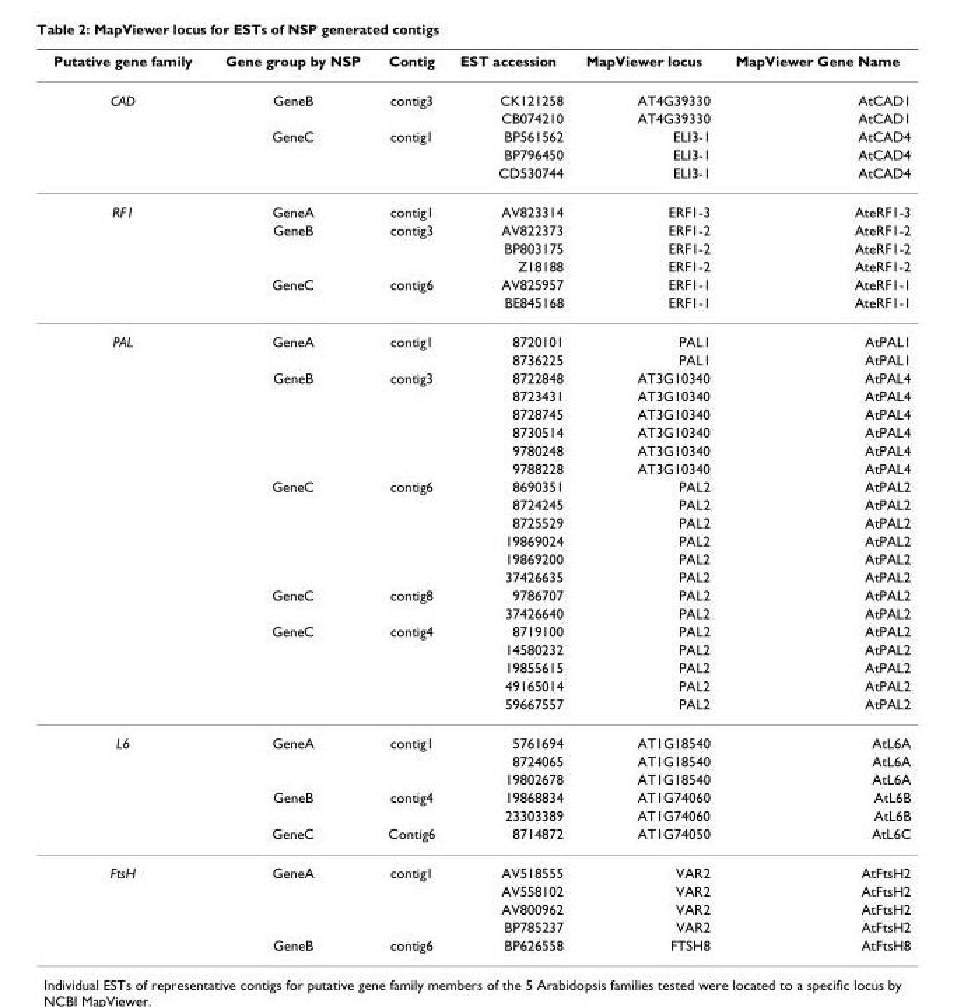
<table><thead><tr><td>Putative gene family</td><td>Gene group by NSP</td><td>Contig</td><td>EST accession</td><td>MapViewer locus</td><td>MapViewer Gene Name</td></tr></thead><tbody><tr><td rowspan="5">CAD</td><td>GeneB</td><td>contig3</td><td>CK121258</td><td>AT4G39330</td><td>AtCAD1</td></tr><tr><td></td><td></td><td>CB074210</td><td>AT4G39330</td><td>AtCAD1</td></tr><tr><td>GeneC</td><td>contig1</td><td>BP561562</td><td>ELI3-1</td><td>AtCAD4</td></tr><tr><td></td><td></td><td>BP796450</td><td>ELI3-1</td><td>AtCAD4</td></tr><tr><td></td><td></td><td>CD530744</td><td>ELI3-1</td><td>AtCAD4</td></tr><tr><td rowspan="6">RF1</td><td>GeneA</td><td>contig1</td><td>AV823314</td><td>ERF1-3</td><td>AteRF1-3</td></tr><tr><td>GeneB</td><td>contig3</td><td>AV822373</td><td>ERF1-2</td><td>AteRF1-2</td></tr><tr><td></td><td></td><td>BP803175</td><td>ERF1-2</td><td>AteRF1-2</td></tr><tr><td></td><td></td><td>Z18188</td><td>ERF1-2</td><td>AteRF1-2</td></tr><tr><td>GeneC</td><td>contig6</td><td>AV825957</td><td>ERF1-1</td><td>AteRF1-1</td></tr><tr><td></td><td></td><td>BE845168</td><td>ERF1-1</td><td>AteRF1-1</td></tr><tr><td rowspan="21">PAL</td><td>GeneA</td><td>contig1</td><td>8720101</td><td>PAL1</td><td>AtPAL1</td></tr><tr><td></td><td></td><td>8736225</td><td>PAL1</td><td>AtPAL1</td></tr><tr><td>GeneB</td><td>contig3</td><td>8722848</td><td>AT3G10340</td><td>AtPAL4</td></tr><tr><td></td><td></td><td>8723431</td><td>AT3G10340</td><td>AtPAL4</td></tr><tr><td></td><td></td><td>8728745</td><td>AT3G10340</td><td>AtPAL4</td></tr><tr><td></td><td></td><td>8730514</td><td>AT3G10340</td><td>AtPAL4</td></tr><tr><td></td><td></td><td>9780248</td><td>AT3G10340</td><td>AtPAL4</td></tr><tr><td></td><td></td><td>9788228</td><td>AT3G10340</td><td>AtPAL4</td></tr><tr><td>GeneC</td><td>contig6</td><td>8690351</td><td>PAL2</td><td>AtPAL2</td></tr><tr><td></td><td></td><td>8724245</td><td>PAL2</td><td>AtPAL2</td></tr><tr><td></td><td></td><td>8725529</td><td>PAL2</td><td>AtPAL2</td></tr><tr><td></td><td></td><td>19869024</td><td>PAL2</td><td>AtPAL2</td></tr><tr><td></td><td></td><td>19869200</td><td>PAL2</td><td>AtPAL2</td></tr><tr><td></td><td></td><td>37426635</td><td>PAL2</td><td>AtPAL2</td></tr><tr><td>GeneC</td><td>contig8</td><td>9786707</td><td>PAL2</td><td>AtPAL2</td></tr><tr><td></td><td></td><td>37426640</td><td>PAL2</td><td>AtPAL2</td></tr><tr><td>GeneC</td><td>contig4</td><td>8719100</td><td>PAL2</td><td>AtPAL2</td></tr><tr><td></td><td></td><td>14580232</td><td>PAL2</td><td>AtPAL2</td></tr><tr><td></td><td></td><td>19855615</td><td>PAL2</td><td>AtPAL2</td></tr><tr><td></td><td></td><td>49165014</td><td>PAL2</td><td>AtPAL2</td></tr><tr><td></td><td></td><td>59667557</td><td>PAL2</td><td>AtPAL2</td></tr><tr><td rowspan="6">L6</td><td>GeneA</td><td>contig1</td><td>5761694</td><td>AT1G18540</td><td>AtL6A</td></tr><tr><td></td><td></td><td>8724065</td><td>AT1G18540</td><td>AtL6A</td></tr><tr><td></td><td></td><td>19802678</td><td>AT1G18540</td><td>AtL6A</td></tr><tr><td>GeneB</td><td>contig4</td><td>19868834</td><td>AT1G74060</td><td>AtL6B</td></tr><tr><td></td><td></td><td>23303389</td><td>AT1G74060</td><td>AtL6B</td></tr><tr><td>GeneC</td><td>Contig6</td><td>8714872</td><td>AT1G74050</td><td>AtL6C</td></tr><tr><td rowspan="5">FtsH</td><td>GeneA</td><td>contig1</td><td>AV518555</td><td>VAR2</td><td>AtFtsH2</td></tr><tr><td></td><td></td><td>AV558102</td><td>VAR2</td><td>AtFtsH2</td></tr><tr><td></td><td></td><td>AV800962</td><td>VAR2</td><td>AtFtsH2</td></tr><tr><td></td><td></td><td>BP785237</td><td>VAR2</td><td>AtFtsH2</td></tr><tr><td>GeneB</td><td>contig6</td><td>BP626558</td><td>FTSH8</td><td>AtFtsH8</td></tr></tbody></table>